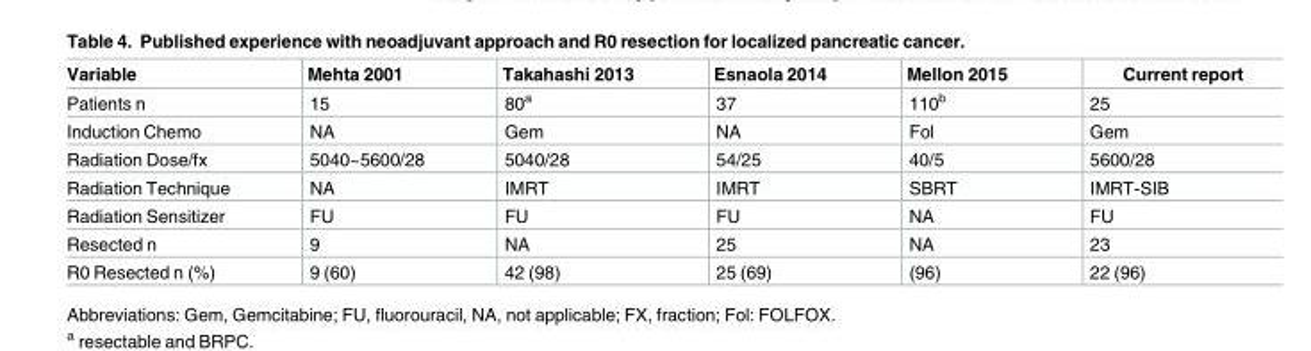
<table><thead><tr><td>Variable</td><td>Mehta 2001</td><td>Takahashi 2013</td><td>Esnaola 2014</td><td>Mellon 2015</td><td>Current report</td></tr></thead><tbody><tr><td>Patients n</td><td>15</td><td>80<sup>a</sup></td><td>37</td><td>110<sup>b</sup></td><td>25</td></tr><tr><td>Induction Chemo</td><td>NA</td><td>Gem</td><td>NA</td><td>Fol</td><td>Gem</td></tr><tr><td>Radiation Dose/fx</td><td>5040~5600/28</td><td>5040/28</td><td>54/25</td><td>40/5</td><td>5600/28</td></tr><tr><td>Radiation Technique</td><td>NA</td><td>IMRT</td><td>IMRT</td><td>SBRT</td><td>IMRT-SIB</td></tr><tr><td>Radiation Sensitizer</td><td>FU</td><td>FU</td><td>FU</td><td>NA</td><td>FU</td></tr><tr><td>Resected n</td><td>9</td><td>NA</td><td>25</td><td>NA</td><td>23</td></tr><tr><td>R0 Resected n (%)</td><td>9 (60)</td><td>42 (98)</td><td>25 (69)</td><td>(96)</td><td>22 (96)</td></tr></tbody></table>